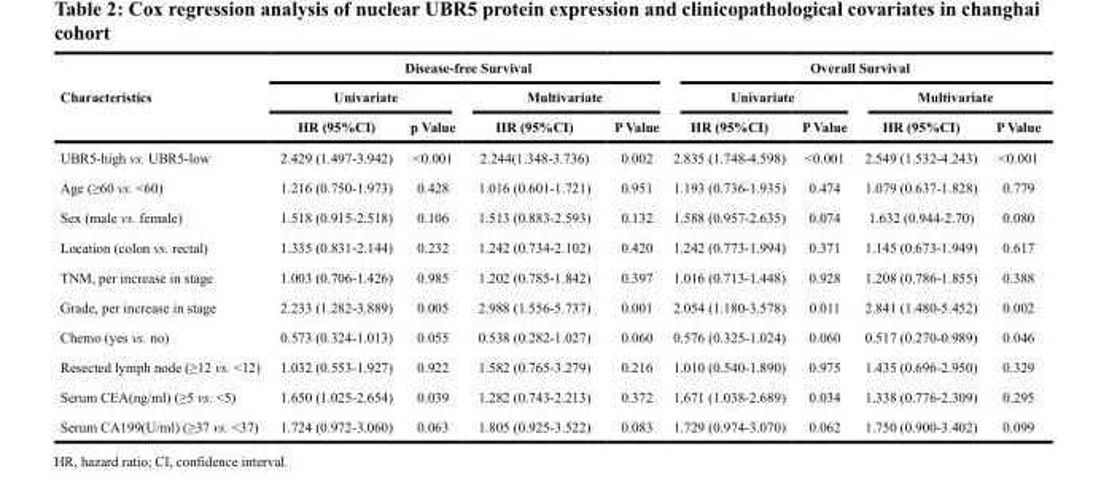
<table><thead><tr><td rowspan="3">Characteristics</td><td colspan="4">Disease-free Survival</td><td colspan="4">Overall Survival</td></tr><tr><td colspan="2">Univariate</td><td colspan="2">Multivariate</td><td colspan="2">Univariate</td><td colspan="2">Multivariate</td></tr><tr><td>HR (95%CI)</td><td>p Value</td><td>HR (95%CI)</td><td>P Value</td><td>HR (95%CI)</td><td>P Value</td><td>HR (95%CI)</td><td>P Value</td></tr></thead><tbody><tr><td>UBR5-high vs. UBR5-low</td><td>2.429 (1.497-3.942)</td><td>&lt;0.001</td><td>2.244(1.348-3.736)</td><td>0.002</td><td>2.835 (1.748-4.598)</td><td>&lt;0.001</td><td>2.549 (1.532-4.243)</td><td>&lt;0.001</td></tr><tr><td>Age (≥60 vs. &lt;60)</td><td>1.216 (0.750-1.973)</td><td>0.428</td><td>1.016 (0.601-1.721)</td><td>0.951</td><td>1.193 (0.736-1.935)</td><td>0.474</td><td>1.079 (0.637-1.828)</td><td>0.779</td></tr><tr><td>Sex (male vs. female)</td><td>1.518 (0.915-2.518)</td><td>0.106</td><td>1.513 (0.883-2.593)</td><td>0.132</td><td>1.588 (0.957-2.635)</td><td>0.074</td><td>1.632 (0.944-2.70)</td><td>0.080</td></tr><tr><td>Location (colon vs. rectal)</td><td>1.335 (0.831-2.144)</td><td>0.232</td><td>1.242 (0.734-2.102)</td><td>0.420</td><td>1.242 (0.773-1.994)</td><td>0.371</td><td>1.145 (0.673-1.949)</td><td>0.617</td></tr><tr><td>TNM, per increase in stage</td><td>1.003 (0.706-1.426)</td><td>0.985</td><td>1.202 (0.785-1.842)</td><td>0.397</td><td>1.016 (0.713-1.448)</td><td>0.928</td><td>1.208 (0.786-1.855)</td><td>0.388</td></tr><tr><td>Grade, per increase in stage</td><td>2.233 (1.282-3.889)</td><td>0.005</td><td>2.988 (1.556-5.737)</td><td>0.001</td><td>2.054 (1.180-3.578)</td><td>0.011</td><td>2.841 (1.480-5.452)</td><td>0.002</td></tr><tr><td>Chemo (yes vs. no)</td><td>0.573 (0.324-1.013)</td><td>0.055</td><td>0.538 (0.282-1.027)</td><td>0.060</td><td>0.576 (0.325-1.024)</td><td>0.060</td><td>0.517 (0.270-0.989)</td><td>0.046</td></tr><tr><td>Resected lymph node (≥12 vs. &lt;12)</td><td>1.032 (0.553-1.927)</td><td>0.922</td><td>1.582 (0.765-3.279)</td><td>0.216</td><td>1.010 (0.540-1.890)</td><td>0.975</td><td>1.435 (0.696-2.950)</td><td>0.329</td></tr><tr><td>Serum CEA(ng/ml) (≥5 vs. &lt;5)</td><td>1.650 (1.025-2.654)</td><td>0.039</td><td>1.282 (0.743-2.213)</td><td>0.372</td><td>1.671 (1.038-2.689)</td><td>0.034</td><td>1.338 (0.776-2.309)</td><td>0.295</td></tr><tr><td>Serum CA199(U/ml) (≥37 vs. &lt;37)</td><td>1.724 (0.972-3.060)</td><td>0.063</td><td>1.805 (0.925-3.522)</td><td>0.083</td><td>1.729 (0.974-3.070)</td><td>0.062</td><td>1.750 (0.900-3.402)</td><td>0.099</td></tr></tbody></table>